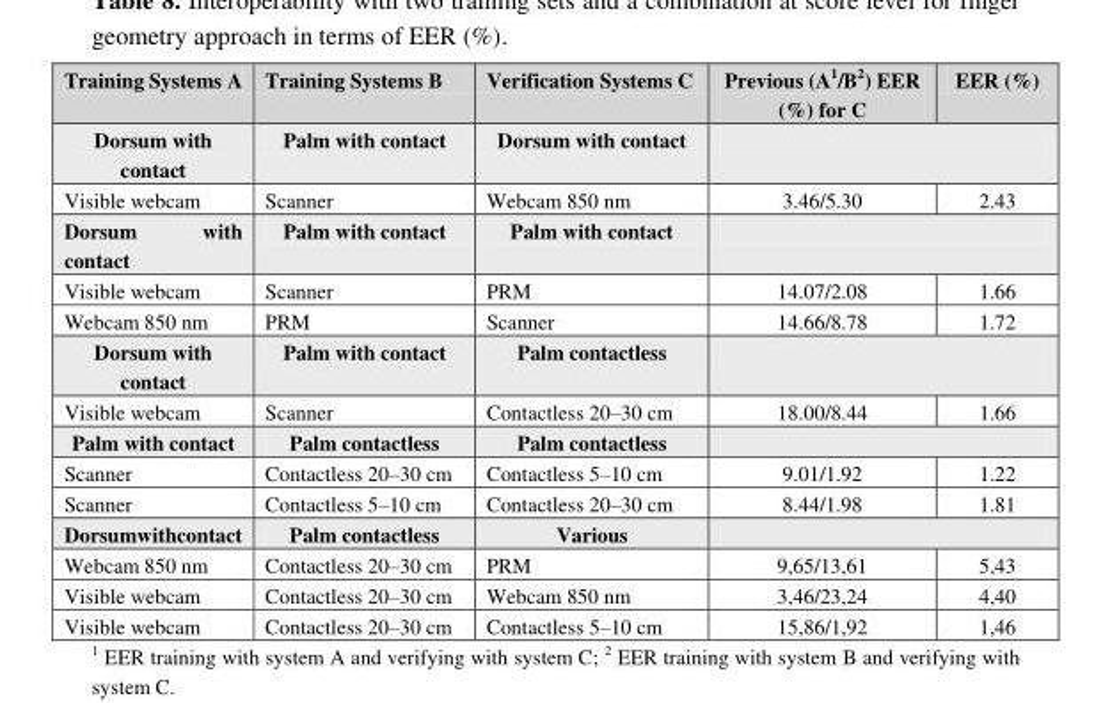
<table><thead><tr><td>Training Systems A</td><td>Training Systems B</td><td>Verification Systems C</td><td>Previous (A<sup>1</sup>/B<sup>2</sup>) EER (%) for C</td><td>EER (%)</td></tr></thead><tbody><tr><td>Dorsum with contact</td><td>Palm with contact</td><td>Dorsum with contact</td><td colspan="2"></td></tr><tr><td>Visible webcam</td><td>Scanner</td><td>Webcam 850 nm</td><td>3.46/5.30</td><td>2.43</td></tr><tr><td>Dorsum with contact</td><td>Palm with contact</td><td>Palm with contact</td><td colspan="2"></td></tr><tr><td>Visible webcam</td><td>Scanner</td><td>PRM</td><td>14.07/2.08</td><td>1.66</td></tr><tr><td>Webcam 850 nm</td><td>PRM</td><td>Scanner</td><td>14.66/8.78</td><td>1.72</td></tr><tr><td>Dorsum with contact</td><td>Palm with contact</td><td>Palm contactless</td><td colspan="2"></td></tr><tr><td>Visible webcam</td><td>Scanner</td><td>Contactless 20–30 cm</td><td>18.00/8.44</td><td>1.66</td></tr><tr><td>Palm with contact</td><td>Palm contactless</td><td>Palm contactless</td><td colspan="2"></td></tr><tr><td>Scanner</td><td>Contactless 20–30 cm</td><td>Contactless 5–10 cm</td><td>9.01/1.92</td><td>1.22</td></tr><tr><td>Scanner</td><td>Contactless 5–10 cm</td><td>Contactless 20–30 cm</td><td>8.44/1.98</td><td>1.81</td></tr><tr><td>Dorsumwithcontact</td><td>Palm contactless</td><td>Various</td><td colspan="2"></td></tr><tr><td>Webcam 850 nm</td><td>Contactless 20–30 cm</td><td>PRM</td><td>9,65/13,61</td><td>5,43</td></tr><tr><td>Visible webcam</td><td>Contactless 20–30 cm</td><td>Webcam 850 nm</td><td>3,46/23,24</td><td>4,40</td></tr><tr><td>Visible webcam</td><td>Contactless 20–30 cm</td><td>Contactless 5–10 cm</td><td>15,86/1,92</td><td>1,46</td></tr></tbody></table>